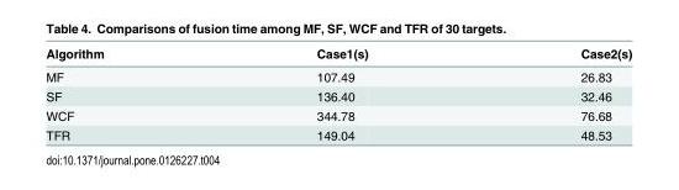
<table><thead><tr><td>Algorithm</td><td>Case1(s)</td><td>Case2(s)</td></tr></thead><tbody><tr><td>MF</td><td>107.49</td><td>26.83</td></tr><tr><td>SF</td><td>136.40</td><td>32.46</td></tr><tr><td>WCF</td><td>344.78</td><td>76.68</td></tr><tr><td>TFR</td><td>149.04</td><td>48.53</td></tr></tbody></table>